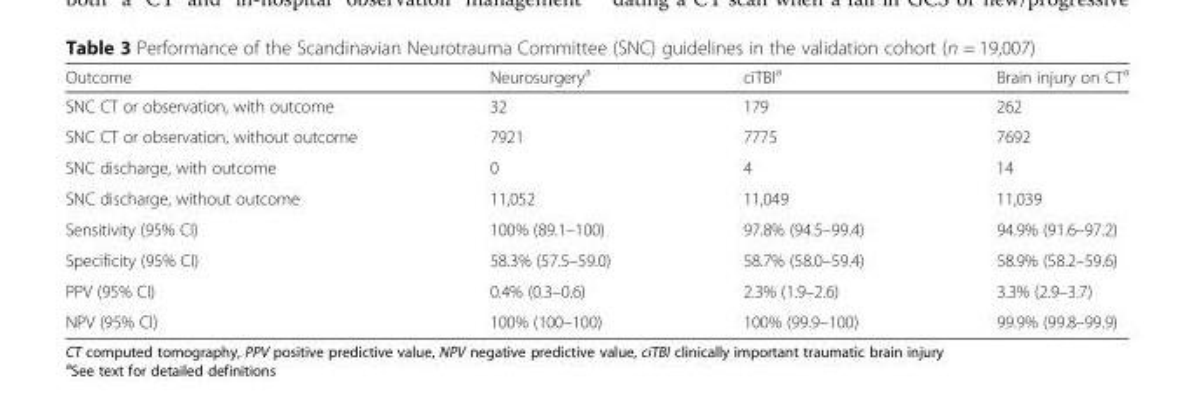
<table><thead><tr><td>Outcome</td><td>Neurosurgery<sup>a</sup></td><td>ciTBI<sup>a</sup></td><td>Brain injury on CT<sup>a</sup></td></tr></thead><tbody><tr><td>SNC CT or observation, with outcome</td><td>32</td><td>179</td><td>262</td></tr><tr><td>SNC CT or observation, without outcome</td><td>7921</td><td>7775</td><td>7692</td></tr><tr><td>SNC discharge, with outcome</td><td>0</td><td>4</td><td>14</td></tr><tr><td>SNC discharge, without outcome</td><td>11,052</td><td>11,049</td><td>11,039</td></tr><tr><td>Sensitivity (95% CI)</td><td>100% (89.1–100)</td><td>97.8% (94.5–99.4)</td><td>94.9% (91.6–97.2)</td></tr><tr><td>Specificity (95% CI)</td><td>58.3% (57.5–59.0)</td><td>58.7% (58.0–59.4)</td><td>58.9% (58.2–59.6)</td></tr><tr><td>PPV (95% CI)</td><td>0.4% (0.3–0.6)</td><td>2.3% (1.9–2.6)</td><td>3.3% (2.9–3.7)</td></tr><tr><td>NPV (95% CI)</td><td>100% (100–100)</td><td>100% (99.9–100)</td><td>99.9% (99.8–99.9)</td></tr></tbody></table>